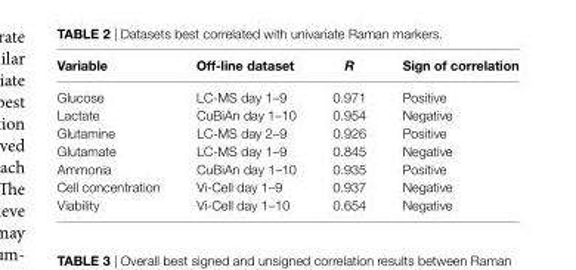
<table><thead><tr><td>Variable</td><td>Off-line dataset</td><td>R</td><td>sign of correlation</td></tr></thead><tbody><tr><td>Glucose</td><td>LC-MS day 1–9</td><td>0.971</td><td>Positive</td></tr><tr><td>Lactate</td><td>CuBiAn day 1–10</td><td>0.954</td><td>Negative</td></tr><tr><td>Glutamine</td><td>LC-MS day 2–9</td><td>0.926</td><td>Positive</td></tr><tr><td>Glutamate</td><td>LC-MS day 1–9</td><td>0.845</td><td>Negative</td></tr><tr><td>Ammonia</td><td>CuBiAn day 1–10</td><td>0.935</td><td>Positive</td></tr><tr><td>Cell concentration</td><td>Vi-Cell day 1–9</td><td>0.937</td><td>Negative</td></tr><tr><td>Viability</td><td>Vi-Cell day 1–10</td><td>0.654</td><td>Negative</td></tr></tbody></table>